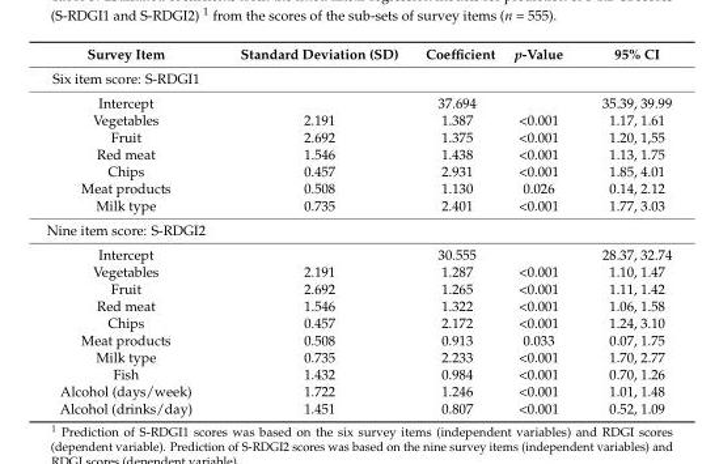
<table><thead><tr><td>Survey Item</td><td>Standard Deviation (SD)</td><td>Coefficient</td><td>p-Value</td><td>95% CI</td></tr></thead><tbody><tr><td colspan="5">Six item score: S-RDGI1</td></tr><tr><td>Intercept</td><td></td><td>37.694</td><td></td><td>35.39, 39.99</td></tr><tr><td>Vegetables</td><td>2.191</td><td>1.387</td><td>&lt;0.001</td><td>1.17, 1.61</td></tr><tr><td>Fruit</td><td>2.692</td><td>1.375</td><td>&lt;0.001</td><td>1.20, 1,55</td></tr><tr><td>Red meat</td><td>1.546</td><td>1.438</td><td>&lt;0.001</td><td>1.13, 1.75</td></tr><tr><td>Chips</td><td>0.457</td><td>2.931</td><td>&lt;0.001</td><td>1.85, 4.01</td></tr><tr><td>Meat products</td><td>0.508</td><td>1.130</td><td>0.026</td><td>0.14, 2.12</td></tr><tr><td>Milk type</td><td>0.735</td><td>2.401</td><td>&lt;0.001</td><td>1.77, 3.03</td></tr><tr><td colspan="5">Nine item score: S-RDGI2</td></tr><tr><td>Intercept</td><td></td><td>30.555</td><td></td><td>28.37, 32.74</td></tr><tr><td>Vegetables</td><td>2.191</td><td>1.287</td><td>&lt;0.001</td><td>1.10, 1.47</td></tr><tr><td>Fruit</td><td>2.692</td><td>1.265</td><td>&lt;0.001</td><td>1.11, 1.42</td></tr><tr><td>Red meat</td><td>1.546</td><td>1.322</td><td>&lt;0.001</td><td>1.06, 1.58</td></tr><tr><td>Chips</td><td>0.457</td><td>2.172</td><td>&lt;0.001</td><td>1.24, 3.10</td></tr><tr><td>Meat products</td><td>0.508</td><td>0.913</td><td>0.033</td><td>0.07, 1.75</td></tr><tr><td>Milk type</td><td>0.735</td><td>2.233</td><td>&lt;0.001</td><td>1.70, 2.77</td></tr><tr><td>Fish</td><td>1.432</td><td>0.984</td><td>&lt;0.001</td><td>0.70, 1.26</td></tr><tr><td>Alcohol (days/week)</td><td>1.722</td><td>1.246</td><td>&lt;0.001</td><td>1.01, 1.48</td></tr><tr><td>Alcohol (drinks/day)</td><td>1.451</td><td>0.807</td><td>&lt;0.001</td><td>0.52, 1.09</td></tr></tbody></table>